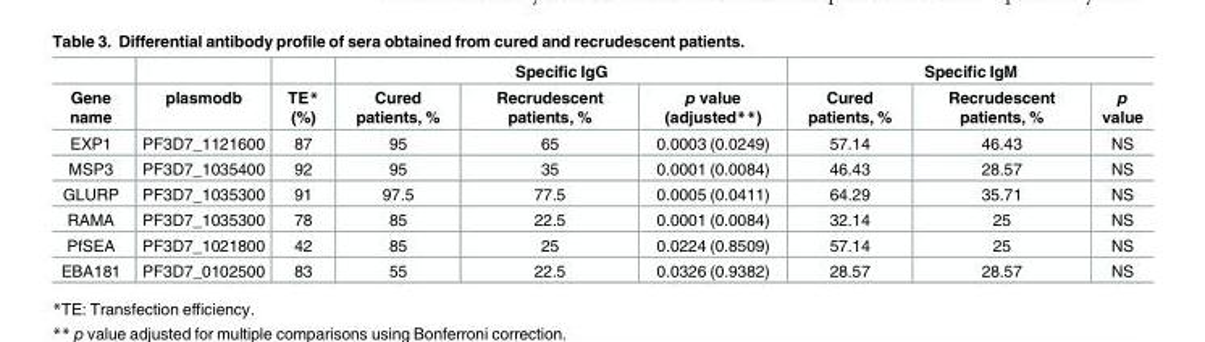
<table><thead><tr><td rowspan="2">Gene name</td><td rowspan="2">plasmodb</td><td rowspan="2">TE* (%)</td><td colspan="3">Specific IgG</td><td colspan="3">Specific IgM</td></tr><tr><td>Cured patients, %</td><td>Recrudescent patients, %</td><td>p value (adjusted**)</td><td>Cured patients, %</td><td>Recrudescent patients, %</td><td>p value</td></tr></thead><tbody><tr><td>EXP1</td><td>PF3D7_1121600</td><td>87</td><td>95</td><td>65</td><td>0.0003 (0.0249)</td><td>57.14</td><td>46.43</td><td>NS</td></tr><tr><td>MSP3</td><td>PF3D7_1035400</td><td>92</td><td>95</td><td>35</td><td>0.0001 (0.0084)</td><td>46.43</td><td>28.57</td><td>NS</td></tr><tr><td>GLURP</td><td>PF3D7_1035300</td><td>91</td><td>97.5</td><td>77.5</td><td>0.0005 (0.0411)</td><td>64.29</td><td>35.71</td><td>NS</td></tr><tr><td>RAMA</td><td>PF3D7_1035300</td><td>78</td><td>85</td><td>22.5</td><td>0.0001 (0.0084)</td><td>32.14</td><td>25</td><td>NS</td></tr><tr><td>PfSEA</td><td>PF3D7_1021800</td><td>42</td><td>85</td><td>25</td><td>0.0224 (0.8509)</td><td>57.14</td><td>25</td><td>NS</td></tr><tr><td>EBA181</td><td>PF3D7_0102500</td><td>83</td><td>55</td><td>22.5</td><td>0.0326 (0.9382)</td><td>28.57</td><td>28.57</td><td>NS</td></tr></tbody></table>